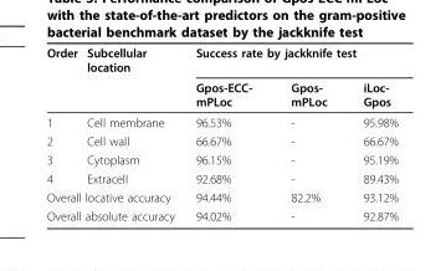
<table><thead><tr><td rowspan="2">Order</td><td rowspan="2">Subcellular location</td><td colspan="3">Success rate by jackknife test</td></tr><tr><td>Gpos-ECC- mPLoc</td><td>Gpos- mPLoc</td><td>iLoc- Gpos</td></tr></thead><tbody><tr><td>1</td><td>Cell membrane</td><td>96.53%</td><td>-</td><td>95.98%</td></tr><tr><td>2</td><td>Cell wall</td><td>66.67%</td><td>-</td><td>66.67%</td></tr><tr><td>3</td><td>Cytoplasm</td><td>96.15%</td><td>-</td><td>95.19%</td></tr><tr><td>4</td><td>Extracell</td><td>92.68%</td><td>-</td><td>89.43%</td></tr><tr><td colspan="2">Overall locative accuracy</td><td>94.44%</td><td>82.2%</td><td>93.12%</td></tr><tr><td colspan="2">Overall absolute accuracy</td><td>94.02%</td><td>-</td><td>92.87%</td></tr></tbody></table>